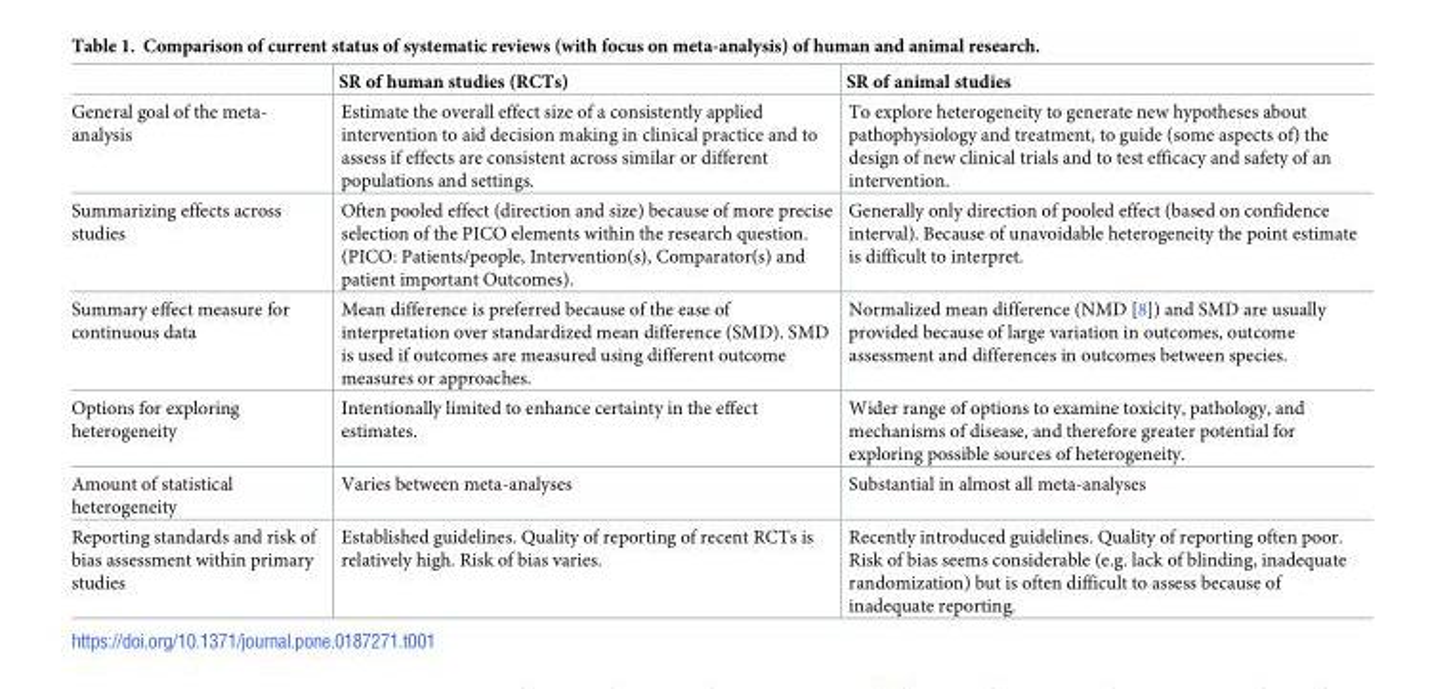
<table><thead><tr><td></td><td>SR of human studies (RCTs)</td><td>SR of animal studies</td></tr></thead><tbody><tr><td>General goal of the meta- analysis</td><td>Estimate the overall effect size of a consistently applied intervention to aid decision making in clinical practice and to assess if effects are consistent across similar or different populations and settings.</td><td>To explore heterogeneity to generate new hypotheses about pathophysiology and treatment, to guide (some aspects of) the design of new clinical trials and to test efficacy and safety of an intervention.</td></tr><tr><td>Summarizing effects across studies</td><td>Often pooled effect (direction and size) because of more precise selection of the PICO elements within the research question. (PICO: Patients/people, Intervention(s), Comparator(s) and patient important Outcomes).</td><td>Generally only direction of pooled effect (based on confidence interval). Because of unavoidable heterogeneity the point estimate is difficult to interpret.</td></tr><tr><td>Summary effect measure for continuous data</td><td>Mean difference is preferred because of the ease of interpretation over standardized mean difference (SMD). SMD is used if outcomes are measured using different outcome measures or approaches.</td><td>Normalized mean difference (NMD [8]) and SMD are usually provided because of large variation in outcomes, outcome assessment and differences in outcomes between species.</td></tr><tr><td>Options for exploring heterogeneity</td><td>Intentionally limited to enhance certainty in the effect estimates.</td><td>Wider range of options to examine toxicity, pathology, and mechanisms of disease, and therefore greater potential for exploring possible sources of heterogeneity.</td></tr><tr><td>Amount of statistical heterogeneity</td><td>Varies between meta-analyses</td><td>Substantial in almost all meta-analyses</td></tr><tr><td>Reporting standards and risk of bias assessment within primary studies</td><td>Established guidelines. Quality of reporting of recent RCTs is relatively high. Risk of bias varies.</td><td>Recently introduced guidelines. Quality of reporting often poor. Risk of bias seems considerable (e.g. lack of blinding, inadequate randomization) but is often difficult to assess because of inadequate reporting.</td></tr></tbody></table>